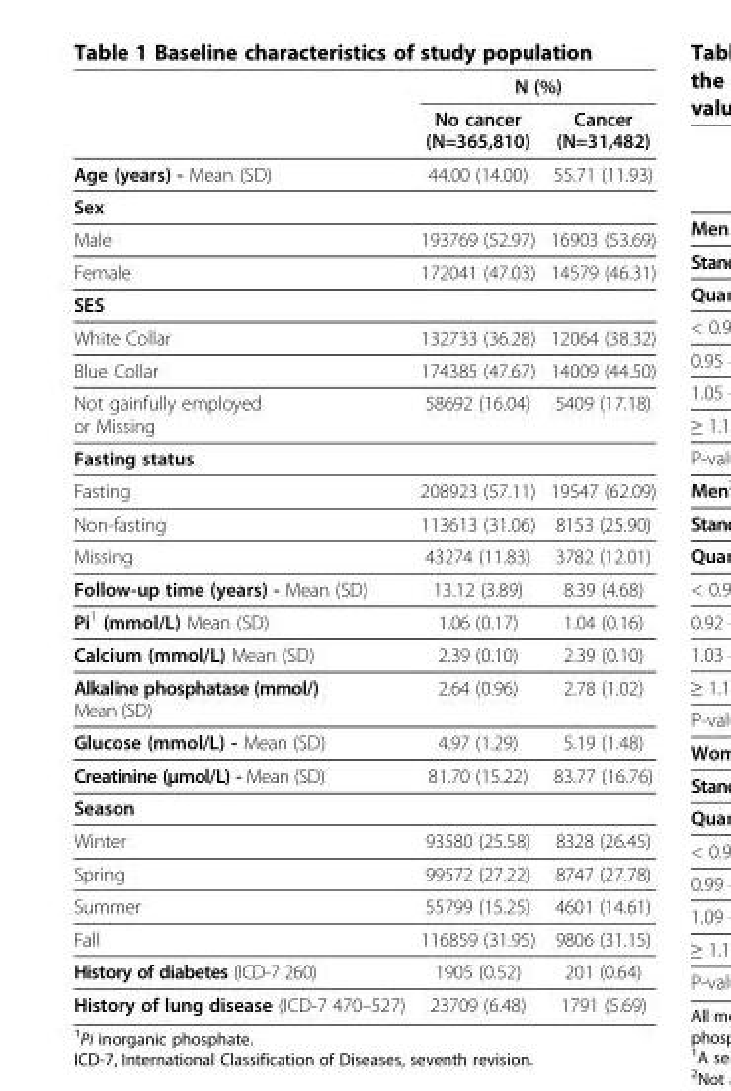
<table><thead><tr><td rowspan="2"></td><td colspan="2">N (%)</td></tr><tr><td>No cancer (N=365,810)</td><td>Cancer (N=31,482)</td></tr></thead><tbody><tr><td>Age (years) - Mean (SD)</td><td>44.00 (14.00)</td><td>55.71 (11.93)</td></tr><tr><td colspan="3">Sex</td></tr><tr><td>Male</td><td>193769 (52.97)</td><td>16903 (53.69)</td></tr><tr><td>Female</td><td>172041 (47.03)</td><td>14579 (46.31)</td></tr><tr><td colspan="3">SES</td></tr><tr><td>White Collar</td><td>132733 (36.28)</td><td>12064 (38.32)</td></tr><tr><td>Blue Collar</td><td>174385 (47.67)</td><td>14009 (44.50)</td></tr><tr><td>Not gainfully employed or Missing</td><td>58692 (16.04)</td><td>5409 (17.18)</td></tr><tr><td colspan="3">Fasting status</td></tr><tr><td>Fasting</td><td>208923 (57.11)</td><td>19547 (62.09)</td></tr><tr><td>Non-fasting</td><td>113613 (31.06)</td><td>8153 (25.90)</td></tr><tr><td>Missing</td><td>43274 (11.83)</td><td>3782 (12.01)</td></tr><tr><td>Follow-up time (years) - Mean (SD)</td><td>13.12 (3.89)</td><td>8.39 (4.68)</td></tr><tr><td>Pi<sup>1</sup> (mmol/L) Mean (SD)</td><td>1.06 (0.17)</td><td>1.04 (0.16)</td></tr><tr><td>Calcium (mmol/L) Mean (SD)</td><td>2.39 (0.10)</td><td>2.39 (0.10)</td></tr><tr><td>Alkaline phosphatase (mmol/) Mean (SD)</td><td>2.64 (0.96)</td><td>2.78 (1.02)</td></tr><tr><td>Glucose (mmol/L) - Mean (SD)</td><td>4.97 (1.29)</td><td>5.19 (1.48)</td></tr><tr><td>Creatinine (μmol/L) - Mean (SD)</td><td>81.70 (15.22)</td><td>83.77 (16.76)</td></tr><tr><td colspan="3">Season</td></tr><tr><td>Winter</td><td>93580 (25.58)</td><td>8328 (26.45)</td></tr><tr><td>Spring</td><td>99572 (27.22)</td><td>8747 (27.78)</td></tr><tr><td>Summer</td><td>55799 (15.25)</td><td>4601 (14.61)</td></tr><tr><td>Fall</td><td>116859 (31.95)</td><td>9806 (31.15)</td></tr><tr><td>History of diabetes (ICD-7 260)</td><td>1905 (0.52)</td><td>201 (0.64)</td></tr><tr><td>History of lung disease (ICD-7 470–527)</td><td>23709 (6.48)</td><td>1791 (5.69)</td></tr></tbody></table>